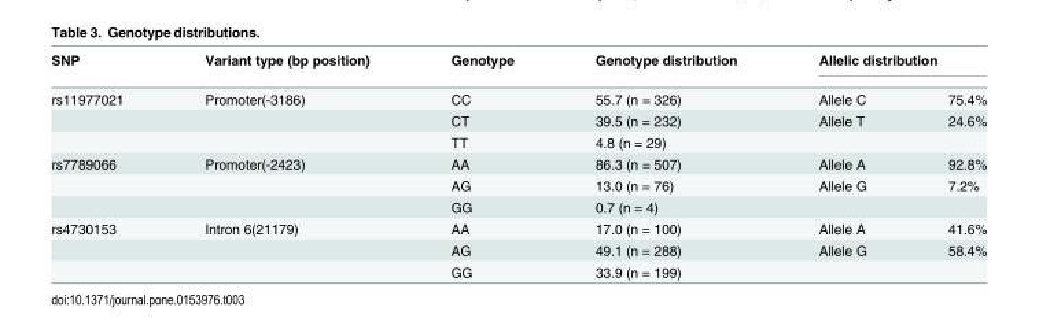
<table><thead><tr><td rowspan="2">SNP rs11977021</td><td rowspan="2">Variant type (bp position) Promoter(-3186)</td><td rowspan="2">Genotype CC</td><td rowspan="2">Genotype distribution 55.7 (n = 326)</td><td colspan="2">Allelic distribution</td></tr><tr><td>Allele C</td><td>75.4%</td></tr></thead><tbody><tr><td></td><td></td><td>CT</td><td>39.5 (n = 232)</td><td>Allele T</td><td>24.6%</td></tr><tr><td></td><td></td><td>TT</td><td>4.8 (n = 29)</td><td></td><td></td></tr><tr><td rowspan="3">rs7789066</td><td>Promoter(-2423)</td><td>AA</td><td>86.3 (n = 507)</td><td>Allele A</td><td>92.8%</td></tr><tr><td></td><td>AG</td><td>13.0 (n = 76)</td><td>Allele G</td><td>7.2%</td></tr><tr><td></td><td>GG</td><td>0.7 (n = 4)</td><td></td><td></td></tr><tr><td rowspan="3">rs4730153</td><td>Intron 6(21179)</td><td>AA</td><td>17.0 (n = 100)</td><td>Allele A</td><td>41.6%</td></tr><tr><td></td><td>AG</td><td>49.1 (n = 288)</td><td>Allele G</td><td>58.4%</td></tr><tr><td></td><td>GG</td><td>33.9 (n = 199)</td><td></td><td></td></tr></tbody></table>